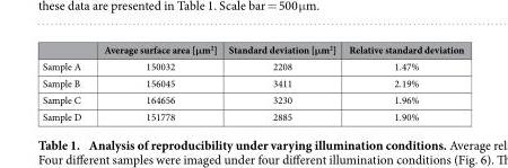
<table><thead><tr><td></td><td>Average surface area [μm<sup>2</sup>]</td><td>Standard deviation [μm<sup>2</sup>]</td><td>Relative standard deviation</td></tr></thead><tbody><tr><td>Sample A</td><td>150032</td><td>2208</td><td>1.47%</td></tr><tr><td>Sample B</td><td>156045</td><td>3411</td><td>2.19%</td></tr><tr><td>Sample C</td><td>164656</td><td>3230</td><td>1.96%</td></tr><tr><td>Sample D</td><td>151778</td><td>2885</td><td>1.90%</td></tr></tbody></table>